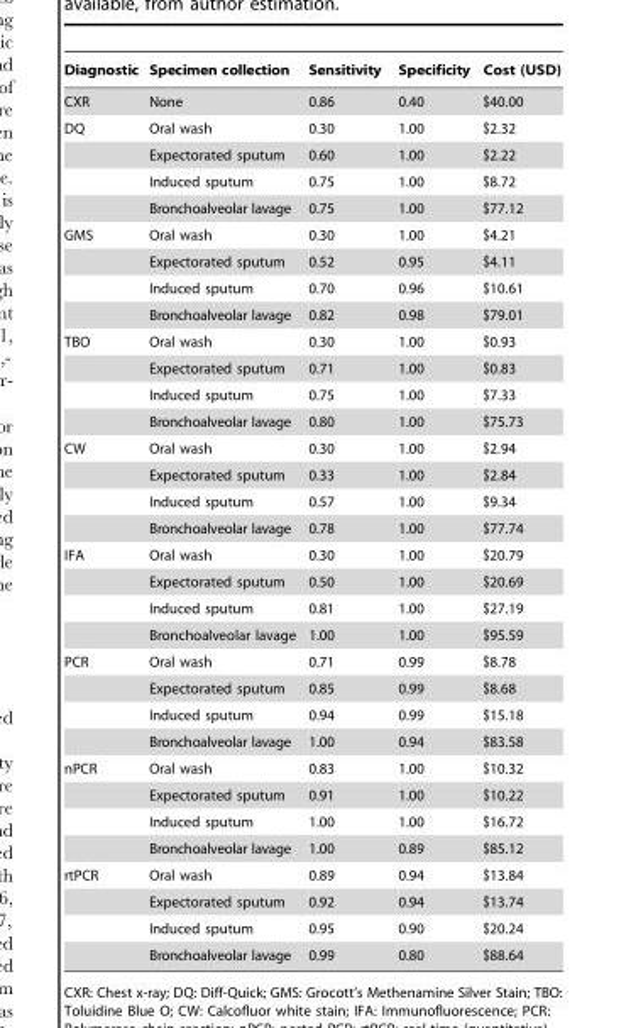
<table><thead><tr><td>Diagnostic</td><td>Specimen collection</td><td>Sensitivity</td><td>Specificity</td><td>Cost (USD)</td></tr></thead><tbody><tr><td>CXR</td><td>None</td><td>0.86</td><td>0.40</td><td>$40.00</td></tr><tr><td rowspan="4">DQ</td><td>Oral wash</td><td>0.30</td><td>1.00</td><td>$2.32</td></tr><tr><td>Expectorated sputum</td><td>0.60</td><td>1.00</td><td>$2.22</td></tr><tr><td>Induced sputum</td><td>0.75</td><td>1.00</td><td>$8.72</td></tr><tr><td>Bronchoalveolar lavage</td><td>0.75</td><td>1.00</td><td>$77.12</td></tr><tr><td rowspan="4">GMS</td><td>Oral wash</td><td>0.30</td><td>1.00</td><td>$4.21</td></tr><tr><td>Expectorated sputum</td><td>0.52</td><td>0.95</td><td>$4.11</td></tr><tr><td>Induced sputum</td><td>0.70</td><td>0.96</td><td>$10.61</td></tr><tr><td>Bronchoalveolar lavage</td><td>0.82</td><td>0.98</td><td>$79.01</td></tr><tr><td rowspan="4">TBO</td><td>Oral wash</td><td>0.30</td><td>1.00</td><td>$0.93</td></tr><tr><td>Expectorated sputum</td><td>0.71</td><td>1.00</td><td>$0.83</td></tr><tr><td>Induced sputum</td><td>0.75</td><td>1.00</td><td>$7.33</td></tr><tr><td>Bronchoalveolar lavage</td><td>0.80</td><td>1.00</td><td>$75.73</td></tr><tr><td rowspan="4">CW</td><td>Oral wash</td><td>0.30</td><td>1.00</td><td>$2.94</td></tr><tr><td>Expectorated sputum</td><td>0.33</td><td>1.00</td><td>$2.84</td></tr><tr><td>Induced sputum</td><td>0.57</td><td>1.00</td><td>$9.34</td></tr><tr><td>Bronchoalveolar lavage</td><td>0.78</td><td>1.00</td><td>$77.74</td></tr><tr><td rowspan="4">IFA</td><td>Oral wash</td><td>0.30</td><td>1.00</td><td>$20.79</td></tr><tr><td>Expectorated sputum</td><td>0.50</td><td>1.00</td><td>$20.69</td></tr><tr><td>Induced sputum</td><td>0.81</td><td>1.00</td><td>$27.19</td></tr><tr><td>Bronchoalveolar lavage</td><td>1.00</td><td>1.00</td><td>$95.59</td></tr><tr><td rowspan="4">PCR</td><td>Oral wash</td><td>0.71</td><td>0.99</td><td>$8.78</td></tr><tr><td>Expectorated sputum</td><td>0.85</td><td>0.99</td><td>$8.68</td></tr><tr><td>Induced sputum</td><td>0.94</td><td>0.99</td><td>$15.18</td></tr><tr><td>Bronchoalveolar lavage</td><td>1.00</td><td>0.94</td><td>$83.58</td></tr><tr><td rowspan="4">nPCR</td><td>Oral wash</td><td>0.83</td><td>1.00</td><td>$10.32</td></tr><tr><td>Expectorated sputum</td><td>0.91</td><td>1.00</td><td>$10.22</td></tr><tr><td>Induced sputum</td><td>1.00</td><td>1.00</td><td>$16.72</td></tr><tr><td>Bronchoalveolar lavage</td><td>1.00</td><td>0.89</td><td>$85.12</td></tr><tr><td rowspan="4">rtPCR</td><td>Oral wash</td><td>0.89</td><td>0.94</td><td>$13.84</td></tr><tr><td>Expectorated sputum</td><td>0.92</td><td>0.94</td><td>$13.74</td></tr><tr><td>Induced sputum</td><td>0.95</td><td>0.90</td><td>$20.24</td></tr><tr><td>Bronchoalveolar lavage</td><td>0.99</td><td>0.80</td><td>$88.64</td></tr></tbody></table>